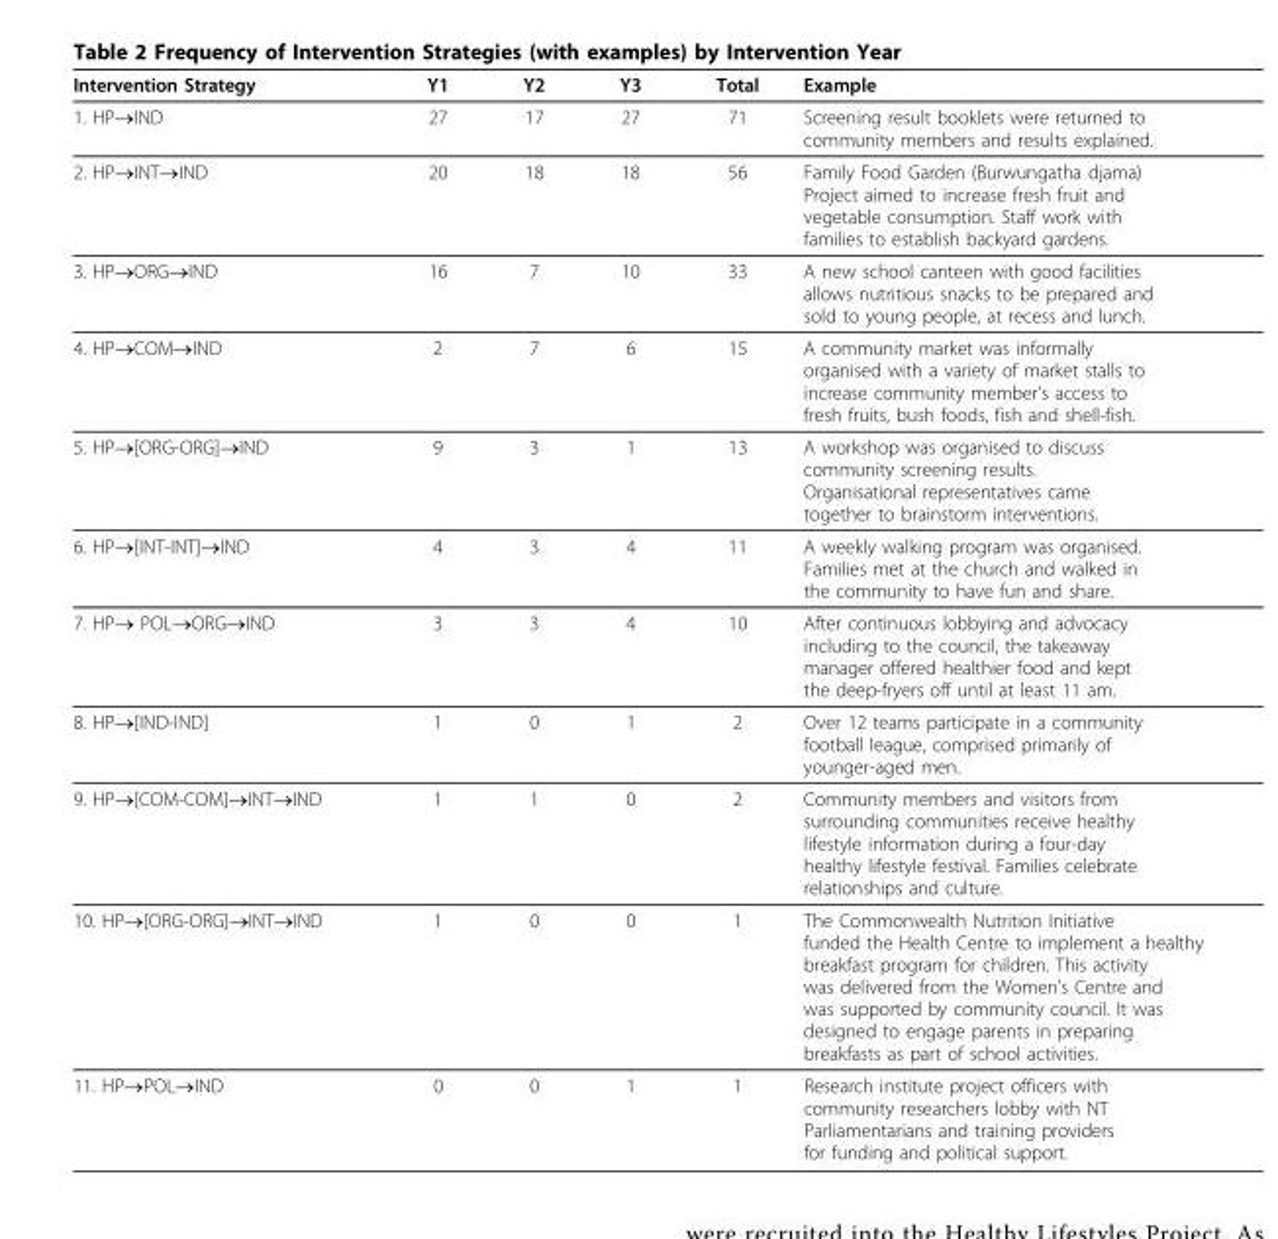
<table><thead><tr><td>Intervention Strategy</td><td>Y1</td><td>Y2</td><td>Y3</td><td>Total</td><td>Example</td></tr></thead><tbody><tr><td>1. HP→IND</td><td>27</td><td>17</td><td>27</td><td>71</td><td>Screening result booklets were returned to community members and results explained.</td></tr><tr><td>2. HP→INT→IND</td><td>20</td><td>18</td><td>18</td><td>56</td><td>Family Food Garden (Burwungatha djama) Project aimed to increase fresh fruit and vegetable consumption. Staff work with families to establish backyard gardens.</td></tr><tr><td>3. HP→ORG→IND</td><td>16</td><td>7</td><td>10</td><td>33</td><td>A new school canteen with good facilities allows nutritious snacks to be prepared and sold to young people, at recess and lunch.</td></tr><tr><td>4. HP→COM→IND</td><td>2</td><td>7</td><td>6</td><td>15</td><td>A community market was informally organised with a variety of market stalls to increase community member’s access to fresh fruits, bush foods, fish and shell-fish.</td></tr><tr><td>5. HP→[ORG-ORG]→IND</td><td>9</td><td>3</td><td>1</td><td>13</td><td>A workshop was organised to discuss community screening results. Organisational representatives came together to brainstorm interventions.</td></tr><tr><td>6. HP→[INT-INT]→IND</td><td>4</td><td>3</td><td>4</td><td>11</td><td>A weekly walking program was organised. Families met at the church and walked in the community to have fun and share.</td></tr><tr><td>7. HP→ POL→ORG→IND</td><td>3</td><td>3</td><td>4</td><td>10</td><td>After continuous lobbying and advocacy including to the council, the takeaway manager offered healthier food and kept the deep-fryers off until at least 11 am.</td></tr><tr><td>8. HP→[IND-IND]</td><td>1</td><td>0</td><td>1</td><td>2</td><td>Over 12 teams participate in a community football league, comprised primarily of younger-aged men.</td></tr><tr><td>9. HP→[COM-COM]→INT→IND</td><td>1</td><td>1</td><td>0</td><td>2</td><td>Community members and visitors from surrounding communities receive healthy lifestyle information during a four-day healthy lifestyle festival. Families celebrate relationships and culture.</td></tr><tr><td>10. HP→[ORG-ORG]→INT→IND</td><td>1</td><td>0</td><td>0</td><td>1</td><td>The Commonwealth Nutrition Initiative funded the Health Centre to implement a healthy breakfast program for children. This activity was delivered from the Women’s Centre and was supported by community council. It was designed to engage parents in preparing breakfasts as part of school activities.</td></tr><tr><td>11. HP→POL→IND</td><td>0</td><td>0</td><td>1</td><td>1</td><td>Research institute project officers with community researchers lobby with NT Parliamentarians and training providers for funding and political support.</td></tr></tbody></table>